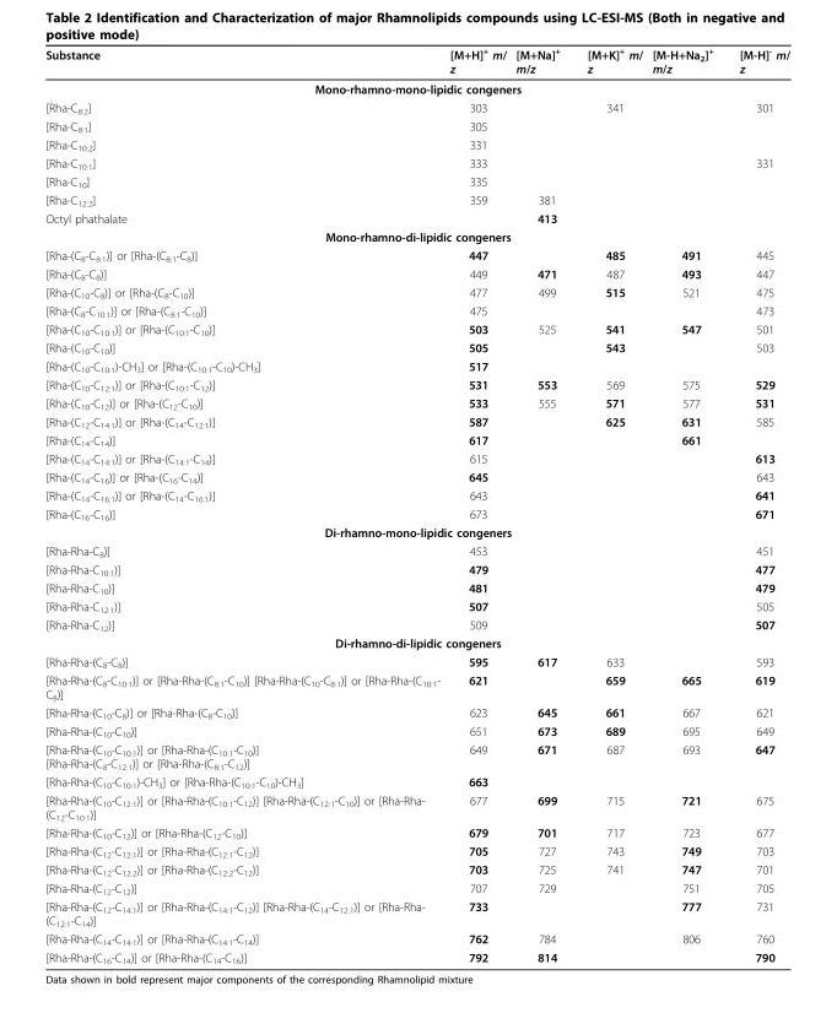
<table><thead><tr><td>Substance</td><td>[M+H]<sup>+</sup> m/ z</td><td>[M+Na]<sup>+</sup> m/z</td><td>[M+K]<sup>+</sup> m/ z</td><td>[M-H+Na<sub>2</sub>]<sup>+</sup> m/z</td><td>[M-H]<sup>-</sup> m/ z</td></tr></thead><tbody><tr><td colspan="6">Mono-rhamno-mono-lipidic congeners</td></tr><tr><td>[Rha-C<sub>8:2</sub>]</td><td>303</td><td></td><td>341</td><td></td><td>301</td></tr><tr><td>[Rha-C<sub>8:1</sub>]</td><td>305</td><td></td><td></td><td></td><td></td></tr><tr><td>[Rha-C<sub>10:2</sub>]</td><td>331</td><td></td><td></td><td></td><td></td></tr><tr><td>[Rha-C<sub>10:1</sub>]</td><td>333</td><td></td><td></td><td></td><td>331</td></tr><tr><td>[Rha-C<sub>10</sub>]</td><td>335</td><td></td><td></td><td></td><td></td></tr><tr><td>[Rha-C<sub>12:2</sub>]</td><td>359</td><td>381</td><td></td><td></td><td></td></tr><tr><td>Octyl phathalate</td><td></td><td>413</td><td></td><td></td><td></td></tr><tr><td colspan="6">Mono-rhamno-di-lipidic congeners</td></tr><tr><td>[Rha-(C<sub>8</sub>-C<sub>8:1</sub>)] or [Rha-(C<sub>8:1</sub>-C<sub>8</sub>)]</td><td>447</td><td></td><td>485</td><td>491</td><td>445</td></tr><tr><td>[Rha-(C<sub>8</sub>-C<sub>8</sub>)]</td><td>449</td><td>471</td><td>487</td><td>493</td><td>447</td></tr><tr><td>[Rha-(C<sub>10</sub>-C<sub>8</sub>)] or [Rha-(C<sub>8</sub>-C<sub>10</sub>)]</td><td>477</td><td>499</td><td>515</td><td>521</td><td>475</td></tr><tr><td>[Rha-(C<sub>8</sub>-C<sub>10:1</sub>)] or [Rha-(C<sub>8:1</sub>-C<sub>10</sub>)]</td><td>475</td><td></td><td></td><td></td><td>473</td></tr><tr><td>[Rha-(C<sub>10</sub>-C<sub>10:1</sub>)] or [Rha-(C<sub>10:1</sub>-C<sub>10</sub>)]</td><td>503</td><td>525</td><td>541</td><td>547</td><td>501</td></tr><tr><td>[Rha-(C<sub>10</sub>-C<sub>10</sub>)]</td><td>505</td><td></td><td>543</td><td></td><td>503</td></tr><tr><td>[Rha-(C<sub>10</sub>-C<sub>10:1</sub>)-CH<sub>3</sub>] or [Rha-(C<sub>10:1</sub>-C<sub>10</sub>)-CH<sub>3</sub>]</td><td>517</td><td></td><td></td><td></td><td></td></tr><tr><td>[Rha-(C<sub>10</sub>-C<sub>12:1</sub>)] or [Rha-(C<sub>10:1</sub>-C<sub>12</sub>)]</td><td>531</td><td>553</td><td>569</td><td>575</td><td>529</td></tr><tr><td>[Rha-(C<sub>10</sub>-C<sub>12</sub>)] or [Rha-(C<sub>12</sub>-C<sub>10</sub>)]</td><td>533</td><td>555</td><td>571</td><td>577</td><td>531</td></tr><tr><td>[Rha-(C<sub>12</sub>-C<sub>14:1</sub>)] or [Rha-(C<sub>14</sub>-C<sub>12:1</sub>)]</td><td>587</td><td></td><td>625</td><td>631</td><td>585</td></tr><tr><td>[Rha-(C<sub>14</sub>-C<sub>14</sub>)]</td><td>617</td><td></td><td></td><td>661</td><td></td></tr><tr><td>[Rha-(C<sub>14</sub>-C<sub>14:1</sub>)] or [Rha-(C<sub>14:1</sub>-C<sub>14</sub>)]</td><td>615</td><td></td><td></td><td></td><td>613</td></tr><tr><td>[Rha-(C<sub>14</sub>-C<sub>16</sub>)] or [Rha-(C<sub>16</sub>-C<sub>14</sub>)]</td><td>645</td><td></td><td></td><td></td><td>643</td></tr><tr><td>[Rha-(C<sub>14</sub>-C<sub>16:1</sub>)] or [Rha-(C<sub>14</sub>-C<sub>16:1</sub>)]</td><td>643</td><td></td><td></td><td></td><td>641</td></tr><tr><td>[Rha-(C<sub>16</sub>-C<sub>16</sub>)]</td><td>673</td><td></td><td></td><td></td><td>671</td></tr><tr><td colspan="6">Di-rhamno-mono-lipidic congeners</td></tr><tr><td>[Rha-Rha-C<sub>8</sub>)]</td><td>453</td><td></td><td></td><td></td><td>451</td></tr><tr><td>[Rha-Rha-C<sub>10:1</sub>)]</td><td>479</td><td></td><td></td><td></td><td>477</td></tr><tr><td>[Rha-Rha-C<sub>10</sub>)]</td><td>481</td><td></td><td></td><td></td><td>479</td></tr><tr><td>[Rha-Rha-C<sub>12:1</sub>)]</td><td>507</td><td></td><td></td><td></td><td>505</td></tr><tr><td>[Rha-Rha-C<sub>12</sub>)]</td><td>509</td><td></td><td></td><td></td><td>507</td></tr><tr><td colspan="6">Di-rhamno-di-lipidic congeners</td></tr><tr><td>[Rha-Rha-(C<sub>8</sub>-C<sub>8</sub>)]</td><td>595</td><td>617</td><td>633</td><td></td><td>593</td></tr><tr><td>[Rha-Rha-(C<sub>8</sub>-C<sub>10:1</sub>)] or [Rha-Rha-(C<sub>8:1</sub>-C<sub>10</sub>)] [Rha-Rha-(C<sub>10</sub>-C<sub>8:1</sub>)] or [Rha-Rha-(C<sub>10:1</sub>- C<sub>8</sub>)]</td><td>621</td><td></td><td>659</td><td>665</td><td>619</td></tr><tr><td>[Rha-Rha-(C<sub>10</sub>-C<sub>8</sub>)] or [Rha-Rha-(C<sub>8</sub>-C<sub>10</sub>)]</td><td>623</td><td>645</td><td>661</td><td>667</td><td>621</td></tr><tr><td>[Rha-Rha-(C<sub>10</sub>-C<sub>10</sub>)]</td><td>651</td><td>673</td><td>689</td><td>695</td><td>649</td></tr><tr><td>[Rha-Rha-(C<sub>10</sub>-C<sub>10:1</sub>)] or [Rha-Rha-(C<sub>10:1</sub>-C<sub>10</sub>)] [Rha-Rha-(C<sub>8</sub>-C<sub>12:1</sub>)] or [Rha-Rha-(C<sub>8:1</sub>-C<sub>12</sub>)]</td><td>649</td><td>671</td><td>687</td><td>693</td><td>647</td></tr><tr><td>[Rha-Rha-(C<sub>10</sub>-C<sub>10:1</sub>)-CH<sub>3</sub>] or [Rha-Rha-(C<sub>10:1</sub>-C<sub>10</sub>)-CH<sub>3</sub>]</td><td>663</td><td></td><td></td><td></td><td></td></tr><tr><td>[Rha-Rha-(C<sub>10</sub>-C<sub>12:1</sub>)] or [Rha-Rha-(C<sub>10:1</sub>-C<sub>12</sub>)] [Rha-Rha-(C<sub>12:1</sub>-C<sub>10</sub>)] or [Rha-Rha- (C<sub>12</sub>-C<sub>10:1</sub>)]</td><td>677</td><td>699</td><td>715</td><td>721</td><td>675</td></tr><tr><td>[Rha-Rha-(C<sub>10</sub>-C<sub>12</sub>)] or [Rha-Rha-(C<sub>12</sub>-C<sub>10</sub>)]</td><td>679</td><td>701</td><td>717</td><td>723</td><td>677</td></tr><tr><td>[Rha-Rha-(C<sub>12</sub>-C<sub>12:1</sub>)] or [Rha-Rha-(C<sub>12:1</sub>-C<sub>12</sub>)]</td><td>705</td><td>727</td><td>743</td><td>749</td><td>703</td></tr><tr><td>[Rha-Rha-(C<sub>12</sub>-C<sub>12:2</sub>)] or [Rha-Rha-(C<sub>12:2</sub>-C<sub>12</sub>)]</td><td>703</td><td>725</td><td>741</td><td>747</td><td>701</td></tr><tr><td>[Rha-Rha-(C<sub>12</sub>-C<sub>12</sub>)]</td><td>707</td><td>729</td><td></td><td>751</td><td>705</td></tr><tr><td>[Rha-Rha-(C<sub>12</sub>-C<sub>14:1</sub>)] or [Rha-Rha-(C<sub>14:1</sub>-C<sub>12</sub>)] [Rha-Rha-(C<sub>14</sub>-C<sub>12:1</sub>)] or [Rha-Rha- (C<sub>12:1</sub>-C<sub>14</sub>)]</td><td>733</td><td></td><td></td><td>777</td><td>731</td></tr><tr><td>[Rha-Rha-(C<sub>14</sub>-C<sub>14:1</sub>)] or [Rha-Rha-(C<sub>14:1</sub>-C<sub>14</sub>)]</td><td>762</td><td>784</td><td></td><td>806</td><td>760</td></tr><tr><td>[Rha-Rha-(C<sub>16</sub>-C<sub>14</sub>)] or [Rha-Rha-(C<sub>14</sub>-C<sub>16</sub>)]</td><td>792</td><td>814</td><td></td><td></td><td>790</td></tr></tbody></table>